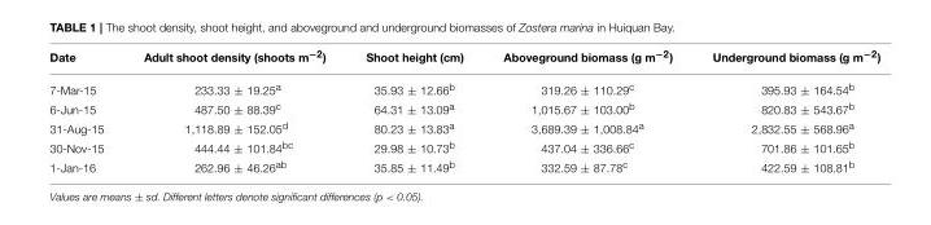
<table><thead><tr><td>Date</td><td>Adult shoot density (shoots m<sup>−2</sup>)</td><td>Shoot height (cm)</td><td>Aboveground biomass (g m<sup>−2</sup>)</td><td>Underground biomass (g m<sup>−2</sup>)</td></tr></thead><tbody><tr><td>7-Mar-15</td><td>233.33 ± 19.25<sup>a</sup></td><td>35.93 ± 12.66<sup>b</sup></td><td>319.26 ± 110.29<sup>c</sup></td><td>395.93 ± 164.54<sup>b</sup></td></tr><tr><td>6-Jun-15</td><td>487.50 ± 88.39<sup>c</sup></td><td>64.31 ± 13.09<sup>a</sup></td><td>1,015.67 ± 103.00<sup>b</sup></td><td>820.83 ± 543.67<sup>b</sup></td></tr><tr><td>31-Aug-15</td><td>1,118.89 ± 152.05<sup>d</sup></td><td>80.23 ± 13.83<sup>a</sup></td><td>3,689.39 ± 1,008.84<sup>a</sup></td><td>2,832.55 ± 568.96<sup>a</sup></td></tr><tr><td>30-Nov-15</td><td>444.44 ± 101.84<sup>bc</sup></td><td>29.98 ± 10.73<sup>b</sup></td><td>437.04 ± 336.66<sup>c</sup></td><td>701.86 ± 101.65<sup>b</sup></td></tr><tr><td>1-Jan-16</td><td>262.96 ± 46.26<sup>ab</sup></td><td>35.85 ± 11.49<sup>b</sup></td><td>332.59 ± 87.78<sup>c</sup></td><td>422.59 ± 108.81<sup>b</sup></td></tr></tbody></table>